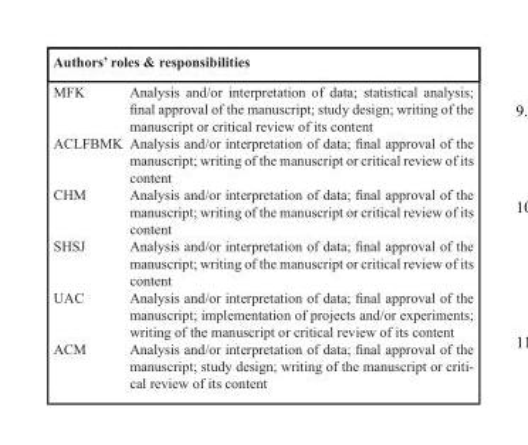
<table><thead><tr><td colspan="2">Authors’ roles &amp; responsibilities</td></tr><tr><td>MFK</td><td>Analysis and/or interpretation of data; statistical analysis; final approval of the manuscript; study design; writing of the manuscript or critical review of its content</td></tr></thead><tbody><tr><td>ACLFBMK</td><td>Analysis and/or interpretation of data; final approval of the manuscript; writing of the manuscript or critical review of its content</td></tr><tr><td>CHM</td><td>Analysis and/or interpretation of data; final approval of the manuscript; writing of the manuscript or critical review of its content</td></tr><tr><td>SHSJ</td><td>Analysis and/or interpretation of data; final approval of the manuscript; writing of the manuscript or critical review of its content</td></tr><tr><td>UAC</td><td>Analysis and/or interpretation of data; final approval of the manuscript; implementation of projects and/or experiments; writing of the manuscript or critical review of its content</td></tr><tr><td>ACM</td><td>Analysis and/or interpretation of data; final approval of the manuscript; study design; writing of the manuscript or criti- cal review of its content</td></tr></tbody></table>